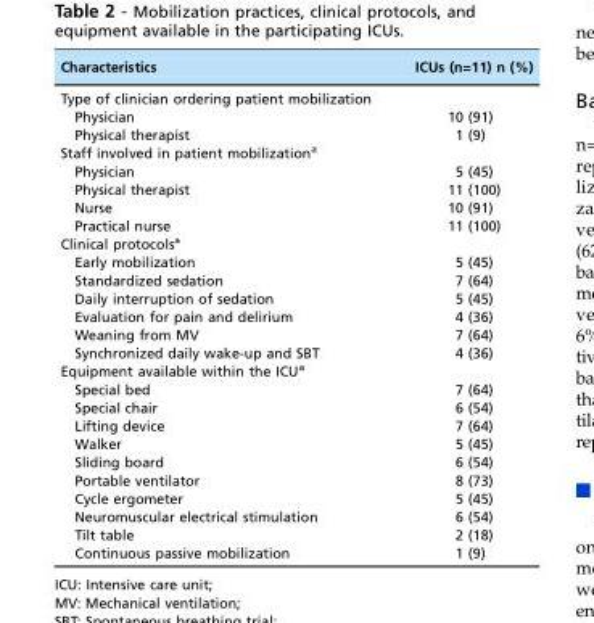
<table><thead><tr><td>Characteristics</td><td>ICUs (n=11) n (%)</td></tr></thead><tbody><tr><td colspan="2">Type of clinician ordering patient mobilization</td></tr><tr><td>Physician</td><td>10 (91)</td></tr><tr><td>Physical therapist</td><td>1 (9)</td></tr><tr><td colspan="2">Staff involved in patient mobilization<sup>a</sup></td></tr><tr><td>Physician</td><td>5 (45)</td></tr><tr><td>Physical therapist</td><td>11 (100)</td></tr><tr><td>Nurse</td><td>10 (91)</td></tr><tr><td>Practical nurse</td><td>11 (100)</td></tr><tr><td colspan="2">Clinical protocols<sup>a</sup></td></tr><tr><td>Early mobilization</td><td>5 (45)</td></tr><tr><td>Standardized sedation</td><td>7 (64)</td></tr><tr><td>Daily interruption of sedation</td><td>5 (45)</td></tr><tr><td>Evaluation for pain and delirium</td><td>4 (36)</td></tr><tr><td>Weaning from MV</td><td>7 (64)</td></tr><tr><td>Synchronized daily wake-up and SBT</td><td>4 (36)</td></tr><tr><td colspan="2">Equipment available within the ICU<sup>a</sup></td></tr><tr><td>Special bed</td><td>7 (64)</td></tr><tr><td>Special chair</td><td>6 (54)</td></tr><tr><td>Lifting device</td><td>7 (64)</td></tr><tr><td>Walker</td><td>5 (45)</td></tr><tr><td>Sliding board</td><td>6 (54)</td></tr><tr><td>Portable ventilator</td><td>8 (73)</td></tr><tr><td>Cycle ergometer</td><td>5 (45)</td></tr><tr><td>Neuromuscular electrical stimulation</td><td>6 (54)</td></tr><tr><td>Tilt table</td><td>2 (18)</td></tr><tr><td>Continuous passive mobilization</td><td>1 (9)</td></tr></tbody></table>